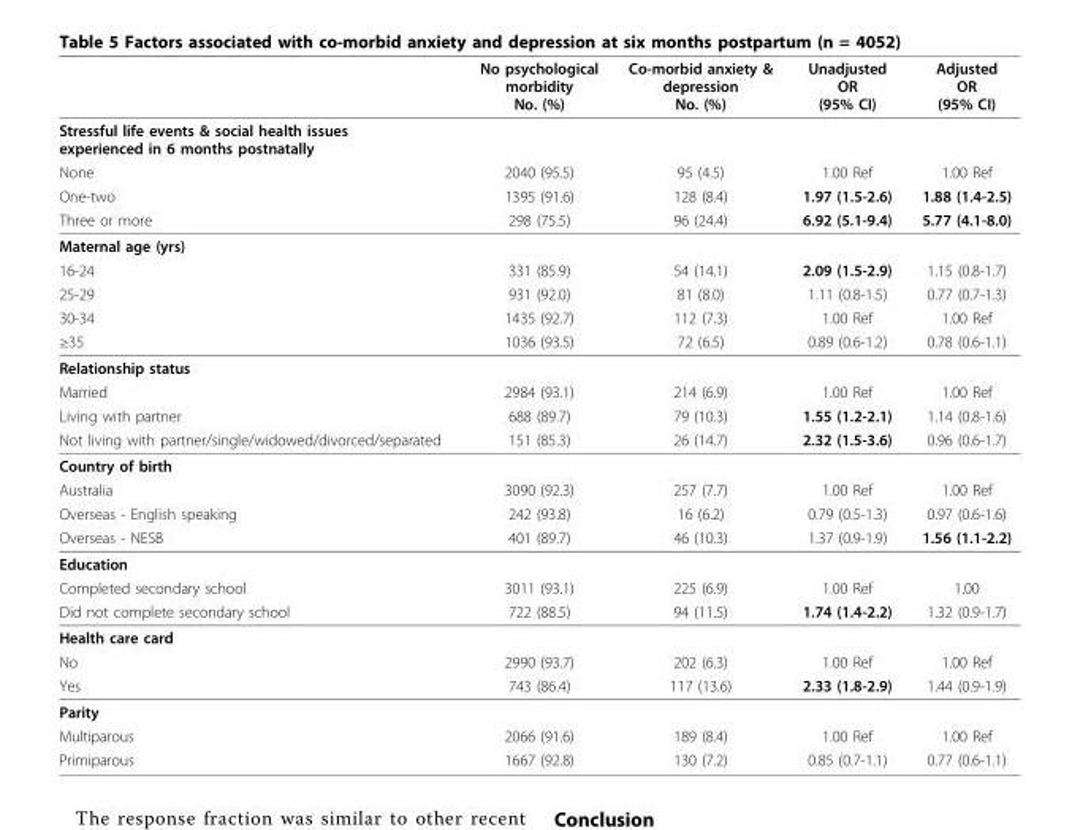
<table><thead><tr><td></td><td>No psychological morbidity No. (%)</td><td>Co-morbid anxiety &amp; depression No. (%)</td><td>Unadjusted OR (95% CI)</td><td>Adjusted OR (95% CI)</td></tr></thead><tbody><tr><td colspan="5">Stressful life events &amp; social health issues experienced in 6 months postnatally</td></tr><tr><td>None</td><td>2040 (95.5)</td><td>95 (4.5)</td><td>1.00 Ref</td><td>1.00 Ref</td></tr><tr><td>One-two</td><td>1395 (91.6)</td><td>128 (8.4)</td><td>1.97 (1.5-2.6)</td><td>1.88 (1.4-2.5)</td></tr><tr><td>Three or more</td><td>298 (75.5)</td><td>96 (24.4)</td><td>6.92 (5.1-9.4)</td><td>5.77 (4.1-8.0)</td></tr><tr><td colspan="5">Maternal age (yrs)</td></tr><tr><td>16-24</td><td>331 (85.9)</td><td>54 (14.1)</td><td>2.09 (1.5-2.9)</td><td>1.15 (0.8-1.7)</td></tr><tr><td>25-29</td><td>931 (92.0)</td><td>81 (8.0)</td><td>1.11 (0.8-1.5)</td><td>0.77 (0.7-1.3)</td></tr><tr><td>30-34</td><td>1435 (92.7)</td><td>112 (7.3)</td><td>1.00 Ref</td><td>1.00 Ref</td></tr><tr><td>≥35</td><td>1036 (93.5)</td><td>72 (6.5)</td><td>0.89 (0.6-1.2)</td><td>0.78 (0.6-1.1)</td></tr><tr><td colspan="5">Relationship status</td></tr><tr><td>Married</td><td>2984 (93.1)</td><td>214 (6.9)</td><td>1.00 Ref</td><td>1.00 Ref</td></tr><tr><td>Living with partner</td><td>688 (89.7)</td><td>79 (10.3)</td><td>1.55 (1.2-2.1)</td><td>1.14 (0.8-1.6)</td></tr><tr><td>Not living with partner/single/widowed/divorced/separated</td><td>151 (85.3)</td><td>26 (14.7)</td><td>2.32 (1.5-3.6)</td><td>0.96 (0.6-1.7)</td></tr><tr><td colspan="5">Country of birth</td></tr><tr><td>Australia</td><td>3090 (92.3)</td><td>257 (7.7)</td><td>1.00 Ref</td><td>1.00 Ref</td></tr><tr><td>Overseas - English speaking</td><td>242 (93.8)</td><td>16 (6.2)</td><td>0.79 (0.5-1.3)</td><td>0.97 (0.6-1.6)</td></tr><tr><td>Overseas - NESB</td><td>401 (89.7)</td><td>46 (10.3)</td><td>1.37 (0.9-1.9)</td><td>1.56 (1.1-2.2)</td></tr><tr><td colspan="5">Education</td></tr><tr><td>Completed secondary school</td><td>3011 (93.1)</td><td>225 (6.9)</td><td>1.00 Ref</td><td>1.00</td></tr><tr><td>Did not complete secondary school</td><td>722 (88.5)</td><td>94 (11.5)</td><td>1.74 (1.4-2.2)</td><td>1.32 (0.9-1.7)</td></tr><tr><td colspan="5">Health care card</td></tr><tr><td>No</td><td>2990 (93.7)</td><td>202 (6.3)</td><td>1.00 Ref</td><td>1.00 Ref</td></tr><tr><td>Yes</td><td>743 (86.4)</td><td>117 (13.6)</td><td>2.33 (1.8-2.9)</td><td>1.44 (0.9-1.9)</td></tr><tr><td colspan="5">Parity</td></tr><tr><td>Multiparous</td><td>2066 (91.6)</td><td>189 (8.4)</td><td>1.00 Ref</td><td>1.00 Ref</td></tr><tr><td>Primiparous</td><td>1667 (92.8)</td><td>130 (7.2)</td><td>0.85 (0.7-1.1)</td><td>0.77 (0.6-1.1)</td></tr></tbody></table>